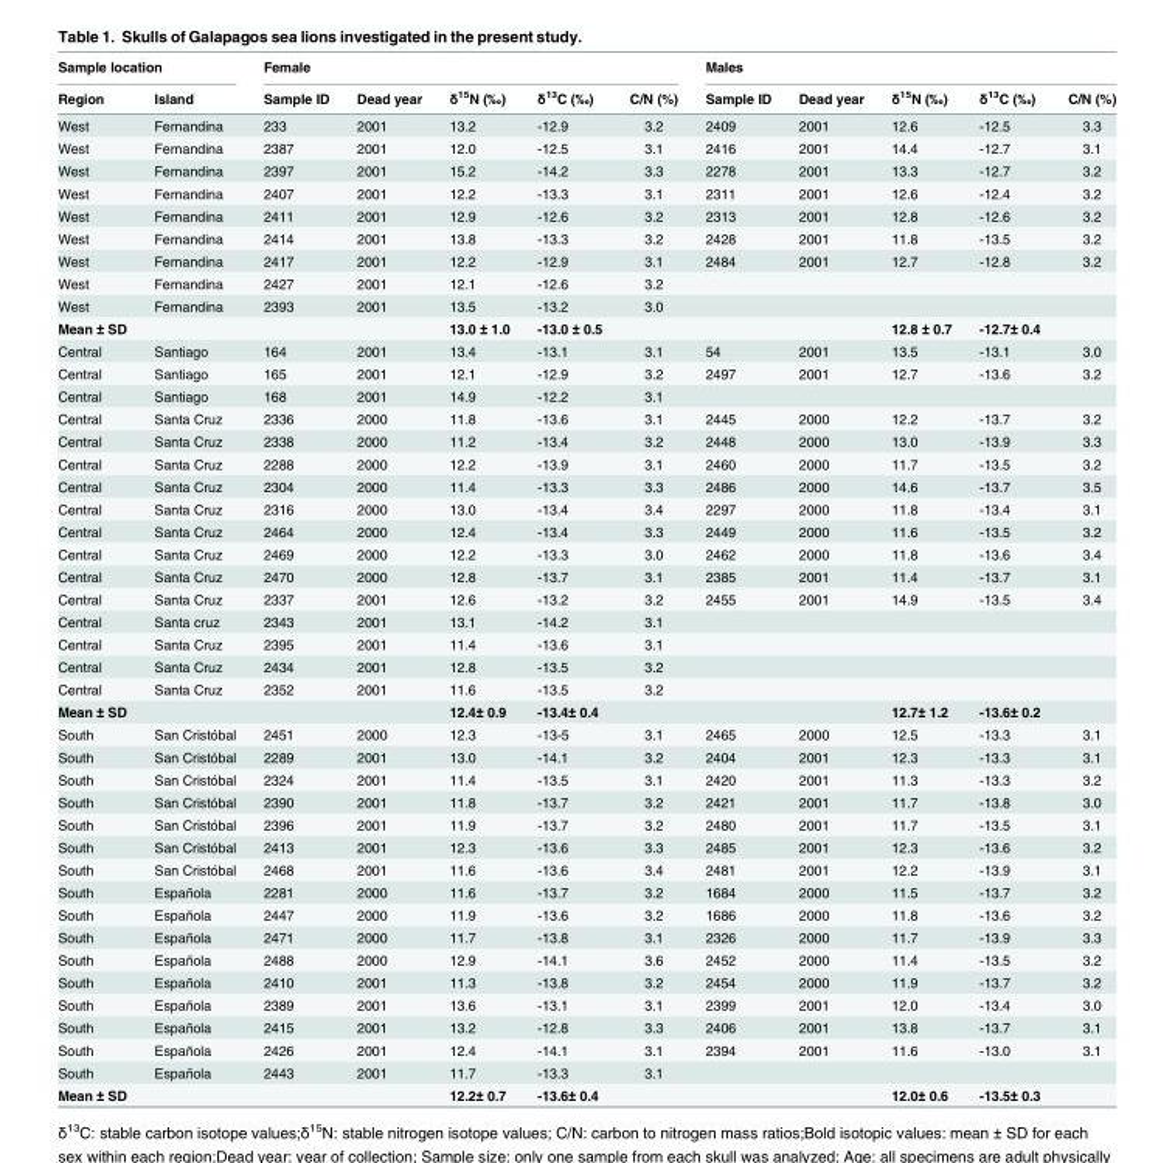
<table><thead><tr><td colspan="2">Sample location</td><td colspan="5">Female</td><td colspan="5">Males</td></tr><tr><td>Region</td><td>Island</td><td>Sample ID</td><td>Dead year</td><td>δ<sup>15</sup>N (‰)</td><td>δ<sup>13</sup>C (‰)</td><td>C/N (%)</td><td>Sample ID</td><td>Dead year</td><td>δ<sup>15</sup>N (‰)</td><td>δ<sup>13</sup>C (‰)</td><td>C/N (%)</td></tr></thead><tbody><tr><td>West</td><td>Fernandina</td><td>233</td><td>2001</td><td>13.2</td><td>-12.9</td><td>3.2</td><td>2409</td><td>2001</td><td>12.6</td><td>-12.5</td><td>3.3</td></tr><tr><td>West</td><td>Fernandina</td><td>2387</td><td>2001</td><td>12.0</td><td>-12.5</td><td>3.1</td><td>2416</td><td>2001</td><td>14.4</td><td>-12.7</td><td>3.1</td></tr><tr><td>West</td><td>Fernandina</td><td>2397</td><td>2001</td><td>15.2</td><td>-14.2</td><td>3.3</td><td>2278</td><td>2001</td><td>13.3</td><td>-12.7</td><td>3.2</td></tr><tr><td>West</td><td>Fernandina</td><td>2407</td><td>2001</td><td>12.2</td><td>-13.3</td><td>3.1</td><td>2311</td><td>2001</td><td>12.6</td><td>-12.4</td><td>3.2</td></tr><tr><td>West</td><td>Fernandina</td><td>2411</td><td>2001</td><td>12.9</td><td>-12.6</td><td>3.2</td><td>2313</td><td>2001</td><td>12.8</td><td>-12.6</td><td>3.2</td></tr><tr><td>West</td><td>Fernandina</td><td>2414</td><td>2001</td><td>13.8</td><td>-13.3</td><td>3.2</td><td>2428</td><td>2001</td><td>11.8</td><td>-13.5</td><td>3.2</td></tr><tr><td>West</td><td>Fernandina</td><td>2417</td><td>2001</td><td>12.2</td><td>-12.9</td><td>3.1</td><td>2484</td><td>2001</td><td>12.7</td><td>-12.8</td><td>3.2</td></tr><tr><td>West</td><td>Fernandina</td><td>2427</td><td>2001</td><td>12.1</td><td>-12.6</td><td>3.2</td><td></td><td></td><td></td><td></td><td></td></tr><tr><td>West</td><td>Fernandina</td><td>2393</td><td>2001</td><td>13.5</td><td>-13.2</td><td>3.0</td><td></td><td></td><td></td><td></td><td></td></tr><tr><td>Mean ± SD</td><td></td><td></td><td></td><td>13.0 ± 1.0</td><td>-13.0 ± 0.5</td><td></td><td></td><td></td><td>12.8 ± 0.7</td><td>-12.7± 0.4</td><td></td></tr><tr><td>Central</td><td>Santiago</td><td>164</td><td>2001</td><td>13.4</td><td>-13.1</td><td>3.1</td><td>54</td><td>2001</td><td>13.5</td><td>-13.1</td><td>3.0</td></tr><tr><td>Central</td><td>Santiago</td><td>165</td><td>2001</td><td>12.1</td><td>-12.9</td><td>3.2</td><td>2497</td><td>2001</td><td>12.7</td><td>-13.6</td><td>3.2</td></tr><tr><td>Central</td><td>Santiago</td><td>168</td><td>2001</td><td>14.9</td><td>-12.2</td><td>3.1</td><td></td><td></td><td></td><td></td><td></td></tr><tr><td>Central</td><td>Santa Cruz</td><td>2336</td><td>2000</td><td>11.8</td><td>-13.6</td><td>3.1</td><td>2445</td><td>2000</td><td>12.2</td><td>-13.7</td><td>3.2</td></tr><tr><td>Central</td><td>Santa Cruz</td><td>2338</td><td>2000</td><td>11.2</td><td>-13.4</td><td>3.2</td><td>2448</td><td>2000</td><td>13.0</td><td>-13.9</td><td>3.3</td></tr><tr><td>Central</td><td>Santa Cruz</td><td>2288</td><td>2000</td><td>12.2</td><td>-13.9</td><td>3.1</td><td>2460</td><td>2000</td><td>11.7</td><td>-13.5</td><td>3.2</td></tr><tr><td>Central</td><td>Santa Cruz</td><td>2304</td><td>2000</td><td>11.4</td><td>-13.3</td><td>3.3</td><td>2486</td><td>2000</td><td>14.6</td><td>-13.7</td><td>3.5</td></tr><tr><td>Central</td><td>Santa Cruz</td><td>2316</td><td>2000</td><td>13.0</td><td>-13.4</td><td>3.4</td><td>2297</td><td>2000</td><td>11.8</td><td>-13.4</td><td>3.1</td></tr><tr><td>Central</td><td>Santa Cruz</td><td>2464</td><td>2000</td><td>12.4</td><td>-13.4</td><td>3.3</td><td>2449</td><td>2000</td><td>11.6</td><td>-13.5</td><td>3.2</td></tr><tr><td>Central</td><td>Santa Cruz</td><td>2469</td><td>2000</td><td>12.2</td><td>-13.3</td><td>3.0</td><td>2462</td><td>2000</td><td>11.8</td><td>-13.6</td><td>3.4</td></tr><tr><td>Central</td><td>Santa Cruz</td><td>2470</td><td>2000</td><td>12.8</td><td>-13.7</td><td>3.1</td><td>2385</td><td>2001</td><td>11.4</td><td>-13.7</td><td>3.1</td></tr><tr><td>Central</td><td>Santa Cruz</td><td>2337</td><td>2001</td><td>12.6</td><td>-13.2</td><td>3.2</td><td>2455</td><td>2001</td><td>14.9</td><td>-13.5</td><td>3.4</td></tr><tr><td>Central</td><td>Santa cruz</td><td>2343</td><td>2001</td><td>13.1</td><td>-14.2</td><td>3.1</td><td></td><td></td><td></td><td></td><td></td></tr><tr><td>Central</td><td>Santa Cruz</td><td>2395</td><td>2001</td><td>11.4</td><td>-13.6</td><td>3.1</td><td></td><td></td><td></td><td></td><td></td></tr><tr><td>Central</td><td>Santa Cruz</td><td>2434</td><td>2001</td><td>12.8</td><td>-13.5</td><td>3.2</td><td></td><td></td><td></td><td></td><td></td></tr><tr><td>Central</td><td>Santa Cruz</td><td>2352</td><td>2001</td><td>11.6</td><td>-13.5</td><td>3.2</td><td></td><td></td><td></td><td></td><td></td></tr><tr><td>Mean ± SD</td><td></td><td></td><td></td><td>12.4± 0.9</td><td>-13.4± 0.4</td><td></td><td></td><td></td><td>12.7± 1.2</td><td>-13.6± 0.2</td><td></td></tr><tr><td>South</td><td>San Cristóbal</td><td>2451</td><td>2000</td><td>12.3</td><td>-13-5</td><td>3.1</td><td>2465</td><td>2000</td><td>12.5</td><td>-13.3</td><td>3.1</td></tr><tr><td>South</td><td>San Cristóbal</td><td>2289</td><td>2001</td><td>13.0</td><td>-14.1</td><td>3.2</td><td>2404</td><td>2001</td><td>12.3</td><td>-13.3</td><td>3.1</td></tr><tr><td>South</td><td>San Cristóbal</td><td>2324</td><td>2001</td><td>11.4</td><td>-13.5</td><td>3.1</td><td>2420</td><td>2001</td><td>11.3</td><td>-13.3</td><td>3.2</td></tr><tr><td>South</td><td>San Cristóbal</td><td>2390</td><td>2001</td><td>11.8</td><td>-13.7</td><td>3.2</td><td>2421</td><td>2001</td><td>11.7</td><td>-13.8</td><td>3.0</td></tr><tr><td>South</td><td>San Cristóbal</td><td>2396</td><td>2001</td><td>11.9</td><td>-13.7</td><td>3.2</td><td>2480</td><td>2001</td><td>11.7</td><td>-13.5</td><td>3.1</td></tr><tr><td>South</td><td>San Cristóbal</td><td>2413</td><td>2001</td><td>12.3</td><td>-13.6</td><td>3.3</td><td>2485</td><td>2001</td><td>12.3</td><td>-13.6</td><td>3.2</td></tr><tr><td>South</td><td>San Cristóbal</td><td>2468</td><td>2001</td><td>11.6</td><td>-13.6</td><td>3.4</td><td>2481</td><td>2001</td><td>12.2</td><td>-13.9</td><td>3.1</td></tr><tr><td>South</td><td>Española</td><td>2281</td><td>2000</td><td>11.6</td><td>-13.7</td><td>3.2</td><td>1684</td><td>2000</td><td>11.5</td><td>-13.7</td><td>3.2</td></tr><tr><td>South</td><td>Española</td><td>2447</td><td>2000</td><td>11.9</td><td>-13.6</td><td>3.2</td><td>1686</td><td>2000</td><td>11.8</td><td>-13.6</td><td>3.2</td></tr><tr><td>South</td><td>Española</td><td>2471</td><td>2000</td><td>11.7</td><td>-13.8</td><td>3.1</td><td>2326</td><td>2000</td><td>11.7</td><td>-13.9</td><td>3.3</td></tr><tr><td>South</td><td>Española</td><td>2488</td><td>2000</td><td>12.9</td><td>-14.1</td><td>3.6</td><td>2452</td><td>2000</td><td>11.4</td><td>-13.5</td><td>3.2</td></tr><tr><td>South</td><td>Española</td><td>2410</td><td>2001</td><td>11.3</td><td>-13.8</td><td>3.2</td><td>2454</td><td>2000</td><td>11.9</td><td>-13.7</td><td>3.2</td></tr><tr><td>South</td><td>Española</td><td>2389</td><td>2001</td><td>13.6</td><td>-13.1</td><td>3.1</td><td>2399</td><td>2001</td><td>12.0</td><td>-13.4</td><td>3.0</td></tr><tr><td>South</td><td>Española</td><td>2415</td><td>2001</td><td>13.2</td><td>-12.8</td><td>3.3</td><td>2406</td><td>2001</td><td>13.8</td><td>-13.7</td><td>3.1</td></tr><tr><td>South</td><td>Española</td><td>2426</td><td>2001</td><td>12.4</td><td>-14.1</td><td>3.1</td><td>2394</td><td>2001</td><td>11.6</td><td>-13.0</td><td>3.1</td></tr><tr><td>South</td><td>Española</td><td>2443</td><td>2001</td><td>11.7</td><td>-13.3</td><td>3.1</td><td></td><td></td><td></td><td></td><td></td></tr><tr><td>Mean ± SD</td><td></td><td></td><td></td><td>12.2± 0.7</td><td>-13.6± 0.4</td><td></td><td></td><td></td><td>12.0± 0.6</td><td>-13.5± 0.3</td><td></td></tr></tbody></table>